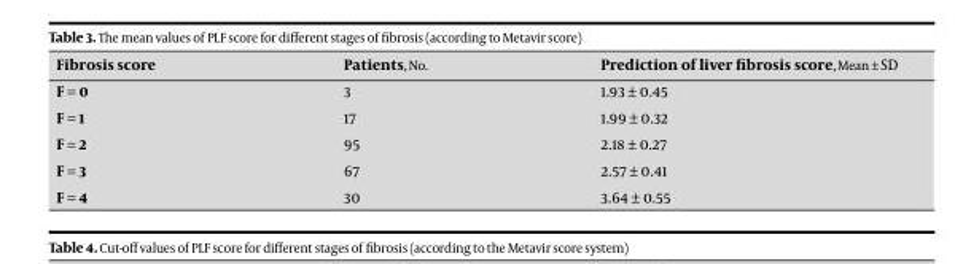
<table><thead><tr><td>Fibrosis score</td><td>Patients, No.</td><td>Prediction of liver fibrosis score, Mean ± SD</td></tr></thead><tbody><tr><td>F = 0</td><td>3</td><td>1.93 ± 0.45</td></tr><tr><td>F = 1</td><td>17</td><td>1.99 ± 0.32</td></tr><tr><td>F = 2</td><td>95</td><td>2.18 ± 0.27</td></tr><tr><td>F = 3</td><td>67</td><td>2.57 ± 0.41</td></tr><tr><td>F = 4</td><td>30</td><td>3.64 ± 0.55</td></tr></tbody></table>